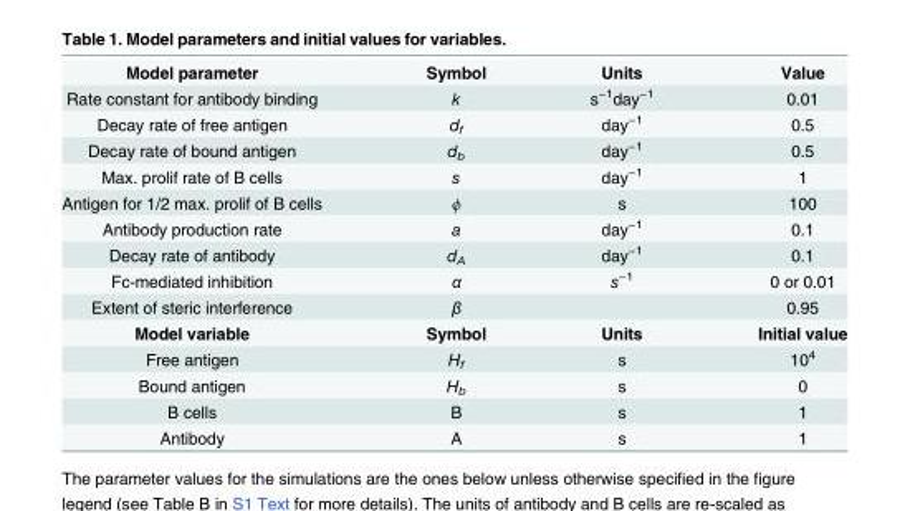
<table><tbody><tr><td>Model parameter</td><td>Symbol</td><td>Units</td><td>Value</td></tr><tr><td>Rate constant for antibody binding</td><td>k</td><td>s<sup>−1</sup>day<sup>−1</sup></td><td>0.01</td></tr><tr><td>Decay rate of free antigen</td><td>d<sub>f</sub></td><td>day<sup>−1</sup></td><td>0.5</td></tr><tr><td>Decay rate of bound antigen</td><td>d<sub>b</sub></td><td>day<sup>−1</sup></td><td>0.5</td></tr><tr><td>Max. prolif rate of B cells</td><td>s</td><td>day<sup>−1</sup></td><td>1</td></tr><tr><td>Antigen for 1/2 max. prolif of B cells</td><td>ϕ</td><td>s</td><td>100</td></tr><tr><td>Antibody production rate</td><td>a</td><td>day<sup>−1</sup></td><td>0.1</td></tr><tr><td>Decay rate of antibody</td><td>d<sub>A</sub></td><td>day<sup>−1</sup></td><td>0.1</td></tr><tr><td>Fc-mediated inhibition</td><td>α</td><td>s<sup>−1</sup></td><td>0 or 0.01</td></tr><tr><td>Extent of steric interference</td><td>β</td><td></td><td>0.95</td></tr><tr><td>Model variable</td><td>Symbol</td><td>Units</td><td>Initial value</td></tr><tr><td>Free antigen</td><td>H<sub>f</sub></td><td>s</td><td>10<sup>4</sup></td></tr><tr><td>Bound antigen</td><td>H<sub>b</sub></td><td>s</td><td>0</td></tr><tr><td>B cells</td><td>B</td><td>s</td><td>1</td></tr><tr><td>Antibody</td><td>A</td><td>s</td><td>1</td></tr></tbody></table>